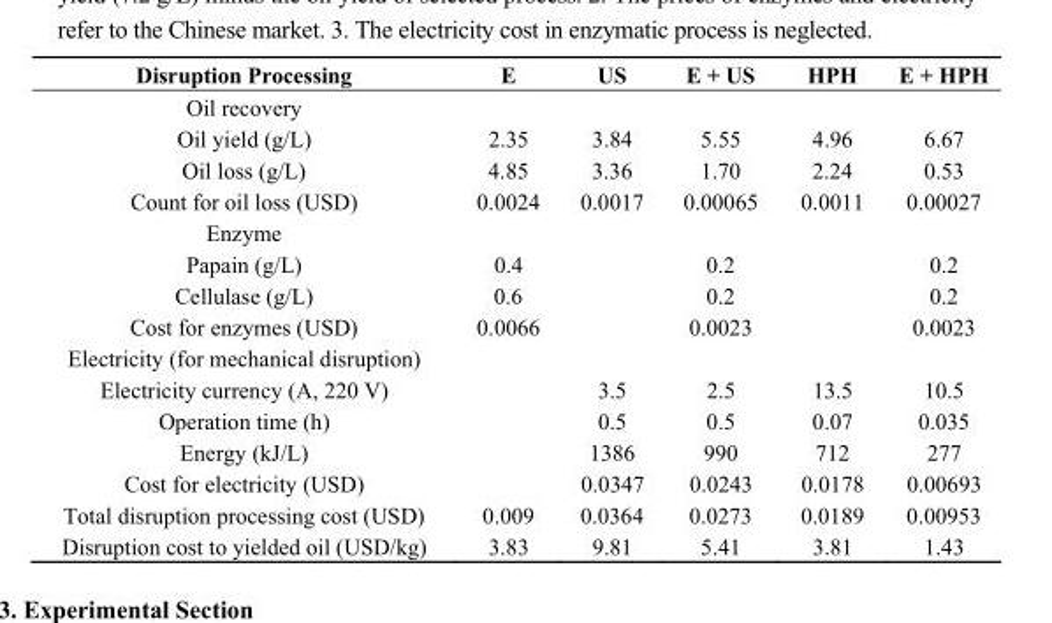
<table><thead><tr><td>Disruption Processing</td><td>E</td><td>US</td><td>E + US</td><td>HPH</td><td>E + HPH</td></tr></thead><tbody><tr><td colspan="6">Oil recovery</td></tr><tr><td>Oil yield (g/L)</td><td>2.35</td><td>3.84</td><td>5.55</td><td>4.96</td><td>6.67</td></tr><tr><td>Oil loss (g/L)</td><td>4.85</td><td>3.36</td><td>1.70</td><td>2.24</td><td>0.53</td></tr><tr><td>Count for oil loss (USD)</td><td>0.0024</td><td>0.0017</td><td>0.00065</td><td>0.0011</td><td>0.00027</td></tr><tr><td colspan="6">Enzyme</td></tr><tr><td>Papain (g/L)</td><td>0.4</td><td></td><td>0.2</td><td></td><td>0.2</td></tr><tr><td>Cellulase (g/L)</td><td>0.6</td><td></td><td>0.2</td><td></td><td>0.2</td></tr><tr><td>Cost for enzymes (USD)</td><td>0.0066</td><td></td><td>0.0023</td><td></td><td>0.0023</td></tr><tr><td colspan="6">Electricity (for mechanical disruption)</td></tr><tr><td>Electricity currency (A, 220 V)</td><td></td><td>3.5</td><td>2.5</td><td>13.5</td><td>10.5</td></tr><tr><td>Operation time (h)</td><td></td><td>0.5</td><td>0.5</td><td>0.07</td><td>0.035</td></tr><tr><td>Energy (kJ/L)</td><td></td><td>1386</td><td>990</td><td>712</td><td>277</td></tr><tr><td>Cost for electricity (USD)</td><td></td><td>0.0347</td><td>0.0243</td><td>0.0178</td><td>0.00693</td></tr><tr><td>Total disruption processing cost (USD)</td><td>0.009</td><td>0.0364</td><td>0.0273</td><td>0.0189</td><td>0.00953</td></tr><tr><td>Disruption cost to yielded oil (USD/kg)</td><td>3.83</td><td>9.81</td><td>5.41</td><td>3.81</td><td>1.43</td></tr></tbody></table>